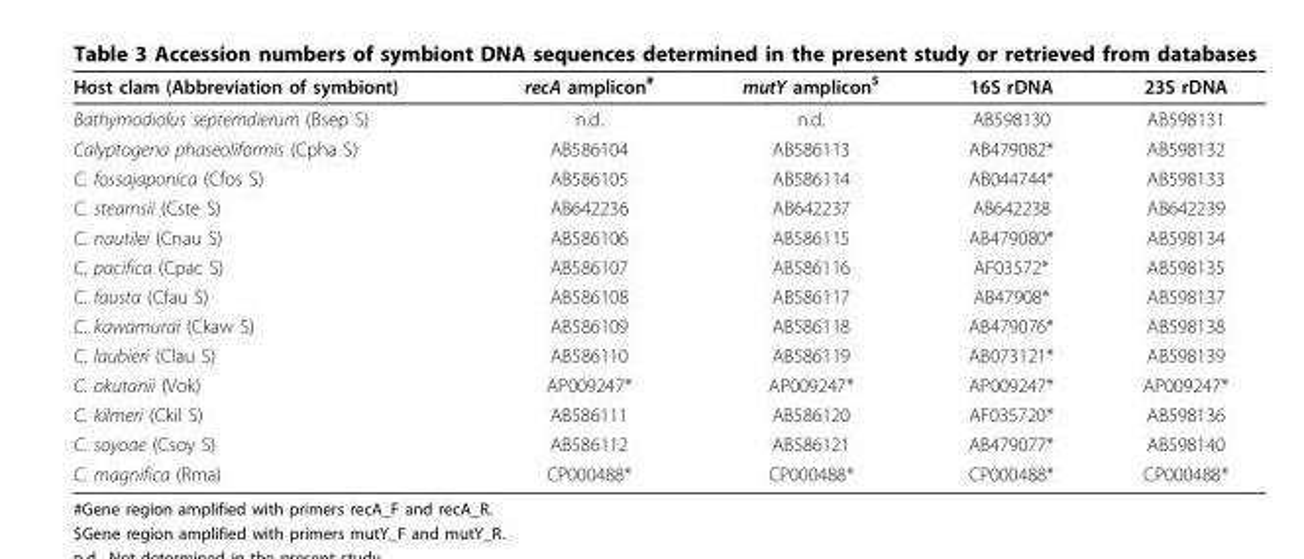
<table><thead><tr><td>Host clam (Abbreviation of symbiont)</td><td>recA amplicon<sup>#</sup></td><td>mutY amplicon<sup>$</sup></td><td>16S rDNA</td><td>23S rDNA</td></tr></thead><tbody><tr><td>Bathymodiolus septemdierum (Bsep S)</td><td>n.d.</td><td>n.d.</td><td>AB598130</td><td>AB598131</td></tr><tr><td>Calyptogena phaseoliformis (Cpha S)</td><td>AB586104</td><td>AB586113</td><td>AB479082*</td><td>AB598132</td></tr><tr><td>C. fossajaponica (Cfos S)</td><td>AB586105</td><td>AB586114</td><td>AB044744*</td><td>AB598133</td></tr><tr><td>C. stearnsii (Cste S)</td><td>AB642236</td><td>AB642237</td><td>AB642238</td><td>AB642239</td></tr><tr><td>C. nautilei (Cnau S)</td><td>AB586106</td><td>AB586115</td><td>AB479080*</td><td>AB598134</td></tr><tr><td>C. pacifica (Cpac S)</td><td>AB586107</td><td>AB586116</td><td>AF03572*</td><td>AB598135</td></tr><tr><td>C. fausta (Cfau S)</td><td>AB586108</td><td>AB586117</td><td>AB47908*</td><td>AB598137</td></tr><tr><td>C. kawamurai (Ckaw S)</td><td>AB586109</td><td>AB586118</td><td>AB479076*</td><td>AB598138</td></tr><tr><td>C. laubieri (Clau S)</td><td>AB586110</td><td>AB586119</td><td>AB073121*</td><td>AB598139</td></tr><tr><td>C. okutanii (Vok)</td><td>AP009247*</td><td>AP009247*</td><td>AP009247*</td><td>AP009247*</td></tr><tr><td>C. kilmeri (Ckil S)</td><td>AB586111</td><td>AB586120</td><td>AF035720*</td><td>AB598136</td></tr><tr><td>C. soyoae (Csoy S)</td><td>AB586112</td><td>AB586121</td><td>AB479077*</td><td>AB598140</td></tr><tr><td>C. magnifica (Rma)</td><td>CP000488*</td><td>CP000488*</td><td>CP000488*</td><td>CP000488*</td></tr></tbody></table>